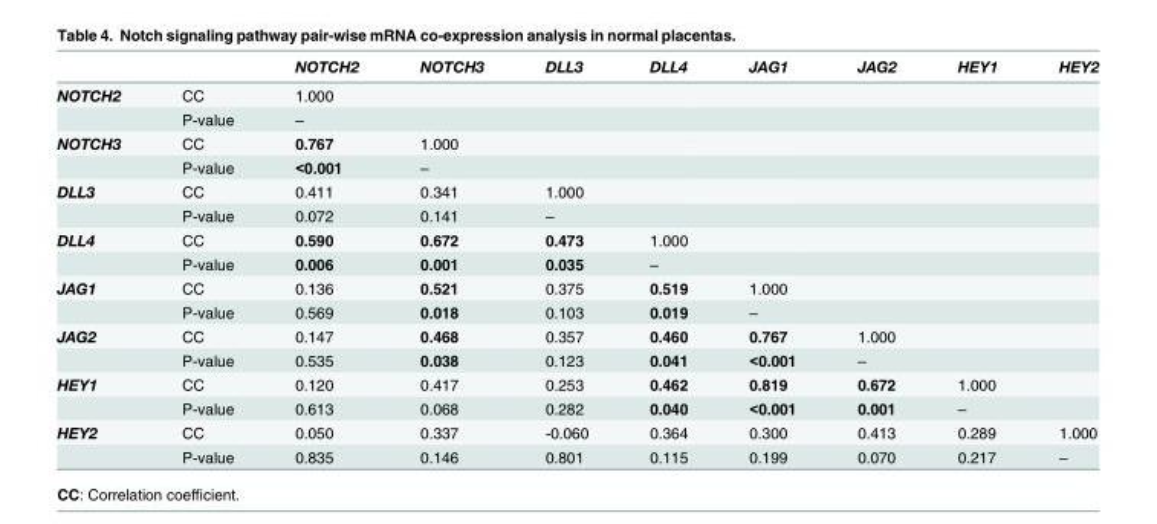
<table><thead><tr><td></td><td></td><td>NOTCH2</td><td>NOTCH3</td><td>DLL3</td><td>DLL4</td><td>JAG1</td><td>JAG2</td><td>HEY1</td><td>HEY2</td></tr></thead><tbody><tr><td rowspan="2">NOTCH2</td><td>CC</td><td>1.000</td><td></td><td></td><td></td><td></td><td></td><td></td><td></td></tr><tr><td>P-value</td><td>–</td><td></td><td></td><td></td><td></td><td></td><td></td><td></td></tr><tr><td rowspan="2">NOTCH3</td><td>CC</td><td>0.767</td><td>1.000</td><td></td><td></td><td></td><td></td><td></td><td></td></tr><tr><td>P-value</td><td>&lt;0.001</td><td>–</td><td></td><td></td><td></td><td></td><td></td><td></td></tr><tr><td rowspan="2">DLL3</td><td>CC</td><td>0.411</td><td>0.341</td><td>1.000</td><td></td><td></td><td></td><td></td><td></td></tr><tr><td>P-value</td><td>0.072</td><td>0.141</td><td>–</td><td></td><td></td><td></td><td></td><td></td></tr><tr><td rowspan="2">DLL4</td><td>CC</td><td>0.590</td><td>0.672</td><td>0.473</td><td>1.000</td><td></td><td></td><td></td><td></td></tr><tr><td>P-value</td><td>0.006</td><td>0.001</td><td>0.035</td><td>–</td><td></td><td></td><td></td><td></td></tr><tr><td rowspan="2">JAG1</td><td>CC</td><td>0.136</td><td>0.521</td><td>0.375</td><td>0.519</td><td>1.000</td><td></td><td></td><td></td></tr><tr><td>P-value</td><td>0.569</td><td>0.018</td><td>0.103</td><td>0.019</td><td>–</td><td></td><td></td><td></td></tr><tr><td rowspan="2">JAG2</td><td>CC</td><td>0.147</td><td>0.468</td><td>0.357</td><td>0.460</td><td>0.767</td><td>1.000</td><td></td><td></td></tr><tr><td>P-value</td><td>0.535</td><td>0.038</td><td>0.123</td><td>0.041</td><td>&lt;0.001</td><td>–</td><td></td><td></td></tr><tr><td rowspan="2">HEY1</td><td>CC</td><td>0.120</td><td>0.417</td><td>0.253</td><td>0.462</td><td>0.819</td><td>0.672</td><td>1.000</td><td></td></tr><tr><td>P-value</td><td>0.613</td><td>0.068</td><td>0.282</td><td>0.040</td><td>&lt;0.001</td><td>0.001</td><td>–</td><td></td></tr><tr><td rowspan="2">HEY2</td><td>CC</td><td>0.050</td><td>0.337</td><td>-0.060</td><td>0.364</td><td>0.300</td><td>0.413</td><td>0.289</td><td>1.000</td></tr><tr><td>P-value</td><td>0.835</td><td>0.146</td><td>0.801</td><td>0.115</td><td>0.199</td><td>0.070</td><td>0.217</td><td>–</td></tr></tbody></table>